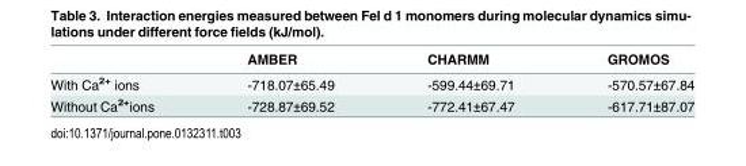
<table><thead><tr><td></td><td>AMBER</td><td>CHARMM</td><td>GROMOS</td></tr></thead><tbody><tr><td>With Ca<sup>2+</sup> ions</td><td>-718.07±65.49</td><td>-599.44±69.71</td><td>-570.57±67.84</td></tr><tr><td>Without Ca<sup>2+</sup>ions</td><td>-728.87±69.52</td><td>-772.41±67.47</td><td>-617.71±87.07</td></tr></tbody></table>